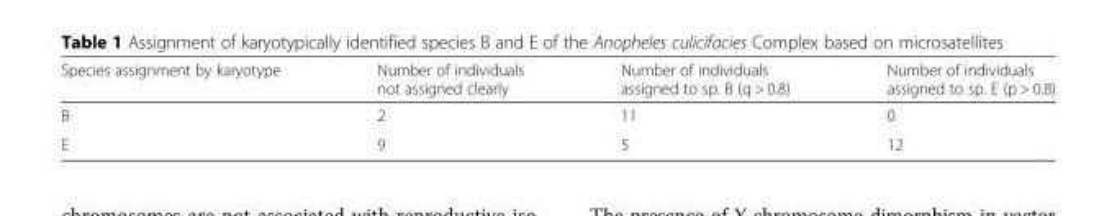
<table><thead><tr><td>Species assignment by karyotype</td><td>Number of individuals not assigned clearly</td><td>Number of individuals assigned to sp. B (q &gt; 0.8)</td><td>Number of individuals assigned to sp. E (p &gt; 0.8)</td></tr></thead><tbody><tr><td>B</td><td>2</td><td>11</td><td>0</td></tr><tr><td>E</td><td>9</td><td>5</td><td>12</td></tr></tbody></table>